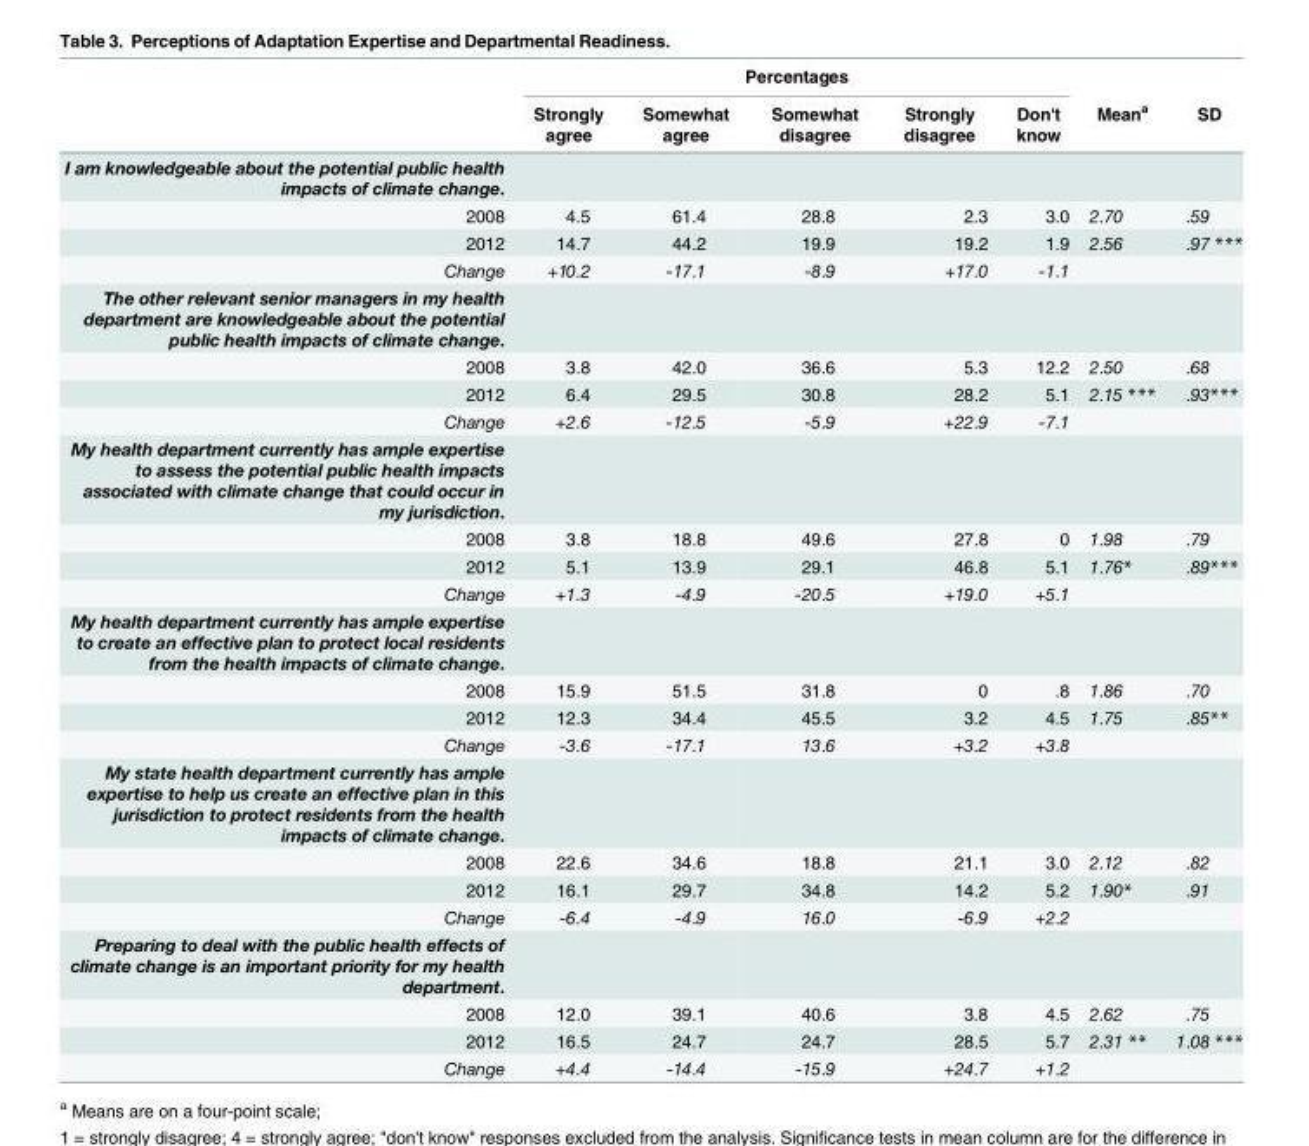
<table><thead><tr><td rowspan="2"></td><td colspan="5">Percentages</td><td rowspan="2">Mean<sup>a</sup></td><td rowspan="2">SD</td></tr><tr><td>Strongly agree</td><td>Somewhat agree</td><td>Somewhat disagree</td><td>Strongly disagree</td><td>Don&#x27;t know</td></tr></thead><tbody><tr><td colspan="8">I am knowledgeable about the potential public health impacts of climate change.</td></tr><tr><td>2008</td><td>4.5</td><td>61.4</td><td>28.8</td><td>2.3</td><td>3.0</td><td>2.70</td><td>.59</td></tr><tr><td>2012</td><td>14.7</td><td>44.2</td><td>19.9</td><td>19.2</td><td>1.9</td><td>2.56</td><td>.97 ***</td></tr><tr><td>Change</td><td>+10.2</td><td>-17.1</td><td>-8.9</td><td>+17.0</td><td>-1.1</td><td></td><td></td></tr><tr><td colspan="8">The other relevant senior managers in my health department are knowledgeable about the potential public health impacts of climate change.</td></tr><tr><td>2008</td><td>3.8</td><td>42.0</td><td>36.6</td><td>5.3</td><td>12.2</td><td>2.50</td><td>.68</td></tr><tr><td>2012</td><td>6.4</td><td>29.5</td><td>30.8</td><td>28.2</td><td>5.1</td><td>2.15 ***</td><td>.93***</td></tr><tr><td>Change</td><td>+2.6</td><td>-12.5</td><td>-5.9</td><td>+22.9</td><td>-7.1</td><td></td><td></td></tr><tr><td colspan="8">My health department currently has ample expertise to assess the potential public health impacts associated with climate change that could occur in my jurisdiction.</td></tr><tr><td>2008</td><td>3.8</td><td>18.8</td><td>49.6</td><td>27.8</td><td>0</td><td>1.98</td><td>.79</td></tr><tr><td>2012</td><td>5.1</td><td>13.9</td><td>29.1</td><td>46.8</td><td>5.1</td><td>1.76*</td><td>.89***</td></tr><tr><td>Change</td><td>+1.3</td><td>-4.9</td><td>-20.5</td><td>+19.0</td><td>+5.1</td><td></td><td></td></tr><tr><td colspan="8">My health department currently has ample expertise to create an effective plan to protect local residents from the health impacts of climate change.</td></tr><tr><td>2008</td><td>15.9</td><td>51.5</td><td>31.8</td><td>0</td><td>.8</td><td>1.86</td><td>.70</td></tr><tr><td>2012</td><td>12.3</td><td>34.4</td><td>45.5</td><td>3.2</td><td>4.5</td><td>1.75</td><td>.85**</td></tr><tr><td>Change</td><td>-3.6</td><td>-17.1</td><td>13.6</td><td>+3.2</td><td>+3.8</td><td></td><td></td></tr><tr><td colspan="8">My state health department currently has ample expertise to help us create an effective plan in this jurisdiction to protect residents from the health impacts of climate change.</td></tr><tr><td>2008</td><td>22.6</td><td>34.6</td><td>18.8</td><td>21.1</td><td>3.0</td><td>2.12</td><td>.82</td></tr><tr><td>2012</td><td>16.1</td><td>29.7</td><td>34.8</td><td>14.2</td><td>5.2</td><td>1.90*</td><td>.91</td></tr><tr><td>Change</td><td>-6.4</td><td>-4.9</td><td>16.0</td><td>-6.9</td><td>+2.2</td><td></td><td></td></tr><tr><td colspan="8">Preparing to deal with the public health effects of climate change is an important priority for my health department.</td></tr><tr><td>2008</td><td>12.0</td><td>39.1</td><td>40.6</td><td>3.8</td><td>4.5</td><td>2.62</td><td>.75</td></tr><tr><td>2012</td><td>16.5</td><td>24.7</td><td>24.7</td><td>28.5</td><td>5.7</td><td>2.31 **</td><td>1.08 ***</td></tr><tr><td>Change</td><td>+4.4</td><td>-14.4</td><td>-15.9</td><td>+24.7</td><td>+1.2</td><td></td><td></td></tr></tbody></table>